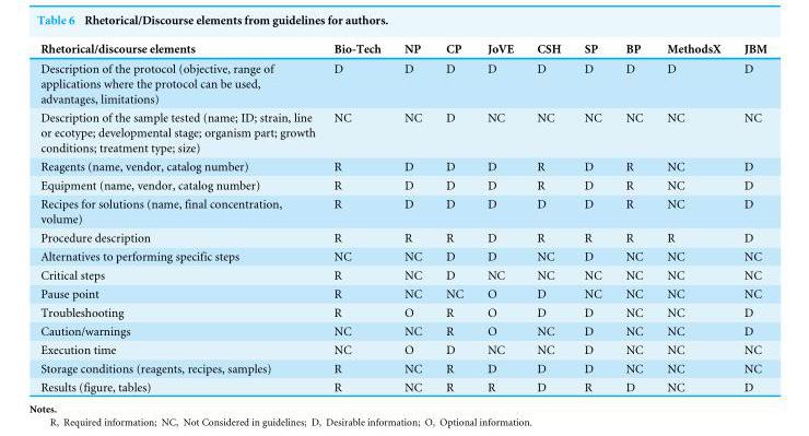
<table><thead><tr><td>Rhetorical/discourse elements</td><td>Bio-Tech</td><td>NP</td><td>CP</td><td>JoVE</td><td>CSH</td><td>SP</td><td>BP</td><td>MethodsX</td><td>JBM</td></tr></thead><tbody><tr><td>Description of the protocol (objective, range of applications where the protocol can be used, advantages, limitations)</td><td>D</td><td>D</td><td>D</td><td>D</td><td>D</td><td>D</td><td>D</td><td>D</td><td>D</td></tr><tr><td>Description of the sample tested (name; ID; strain, line or ecotype; developmental stage; organism part; growth conditions; treatment type; size)</td><td>NC</td><td>NC</td><td>D</td><td>NC</td><td>NC</td><td>NC</td><td>NC</td><td>NC</td><td>NC</td></tr><tr><td>Reagents (name, vendor, catalog number)</td><td>R</td><td>D</td><td>D</td><td>D</td><td>R</td><td>D</td><td>R</td><td>NC</td><td>D</td></tr><tr><td>Equipment (name, vendor, catalog number)</td><td>R</td><td>D</td><td>D</td><td>D</td><td>R</td><td>D</td><td>R</td><td>NC</td><td>D</td></tr><tr><td>Recipes for solutions (name, final concentration, volume)</td><td>R</td><td>D</td><td>D</td><td>D</td><td>D</td><td>D</td><td>R</td><td>NC</td><td>D</td></tr><tr><td>Procedure description</td><td>R</td><td>R</td><td>R</td><td>D</td><td>R</td><td>R</td><td>R</td><td>R</td><td>D</td></tr><tr><td>Alternatives to performing specific steps</td><td>NC</td><td>NC</td><td>D</td><td>D</td><td>NC</td><td>D</td><td>NC</td><td>NC</td><td>NC</td></tr><tr><td>Critical steps</td><td>R</td><td>NC</td><td>D</td><td>NC</td><td>NC</td><td>NC</td><td>NC</td><td>NC</td><td>NC</td></tr><tr><td>Pause point</td><td>R</td><td>NC</td><td>NC</td><td>O</td><td>D</td><td>NC</td><td>NC</td><td>NC</td><td>NC</td></tr><tr><td>Troubleshooting</td><td>R</td><td>O</td><td>R</td><td>O</td><td>D</td><td>D</td><td>NC</td><td>NC</td><td>D</td></tr><tr><td>Caution/warnings</td><td>NC</td><td>NC</td><td>R</td><td>O</td><td>NC</td><td>D</td><td>NC</td><td>NC</td><td>D</td></tr><tr><td>Execution time</td><td>NC</td><td>O</td><td>D</td><td>NC</td><td>NC</td><td>D</td><td>NC</td><td>NC</td><td>NC</td></tr><tr><td>Storage conditions (reagents, recipes, samples)</td><td>R</td><td>NC</td><td>R</td><td>D</td><td>D</td><td>D</td><td>NC</td><td>NC</td><td>NC</td></tr><tr><td>Results (figure, tables)</td><td>R</td><td>NC</td><td>R</td><td>R</td><td>D</td><td>R</td><td>D</td><td>NC</td><td>D</td></tr></tbody></table>